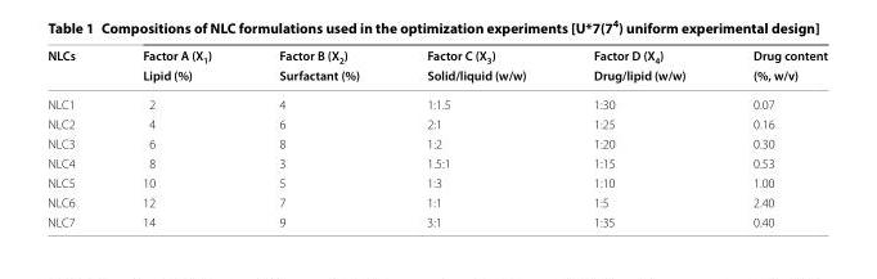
<table><thead><tr><td rowspan="2">NLCs</td><td rowspan="2">Factor A (X<sub>1</sub>) Lipid (%)</td><td rowspan="2">Factor B (X<sub>2</sub>) Surfactant (%)</td><td rowspan="2">Factor C (X<sub>3</sub>) Solid/liquid (w/w)</td><td rowspan="2">Factor D (X<sub>4</sub>) Drug/lipid (w/w)</td><td rowspan="2">Drug content (%, w/v)</td></tr><tr></tr></thead><tbody><tr><td>NLC1</td><td>2</td><td>4</td><td>1:1.5</td><td>1:30</td><td>0.07</td></tr><tr><td>NLC2</td><td>4</td><td>6</td><td>2:1</td><td>1:25</td><td>0.16</td></tr><tr><td>NLC3</td><td>6</td><td>8</td><td>1:2</td><td>1:20</td><td>0.30</td></tr><tr><td>NLC4</td><td>8</td><td>3</td><td>1.5:1</td><td>1:15</td><td>0.53</td></tr><tr><td>NLC5</td><td>10</td><td>5</td><td>1:3</td><td>1:10</td><td>1.00</td></tr><tr><td>NLC6</td><td>12</td><td>7</td><td>1:1</td><td>1:5</td><td>2.40</td></tr><tr><td>NLC7</td><td>14</td><td>9</td><td>3:1</td><td>1:35</td><td>0.40</td></tr></tbody></table>